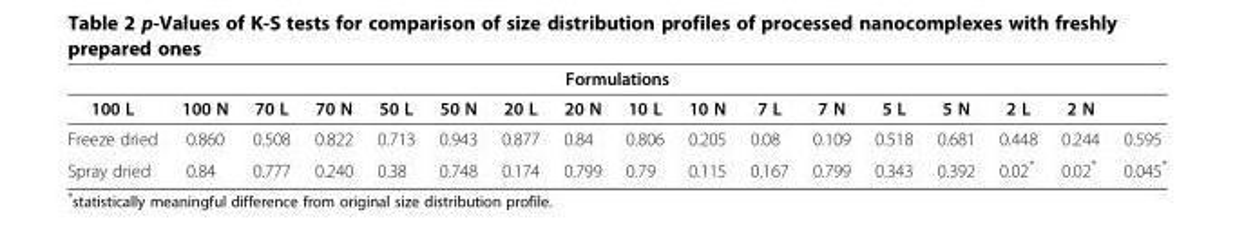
<table><thead><tr><td colspan="17">Formulations</td></tr><tr><td>100 L</td><td>100 N</td><td>70 L</td><td>70 N</td><td>50 L</td><td>50 N</td><td>20 L</td><td>20 N</td><td>10 L</td><td>10 N</td><td>7 L</td><td>7 N</td><td>5 L</td><td>5 N</td><td>2 L</td><td>2 N</td><td></td></tr></thead><tbody><tr><td>Freeze dried</td><td>0.860</td><td>0.508</td><td>0.822</td><td>0.713</td><td>0.943</td><td>0.877</td><td>0.84</td><td>0.806</td><td>0.205</td><td>0.08</td><td>0.109</td><td>0.518</td><td>0.681</td><td>0.448</td><td>0.244</td><td>0.595</td></tr><tr><td>Spray dried</td><td>0.84</td><td>0.777</td><td>0.240</td><td>0.38</td><td>0.748</td><td>0.174</td><td>0.799</td><td>0.79</td><td>0.115</td><td>0.167</td><td>0.799</td><td>0.343</td><td>0.392</td><td>0.02*</td><td>0.02*</td><td>0.045*</td></tr></tbody></table>